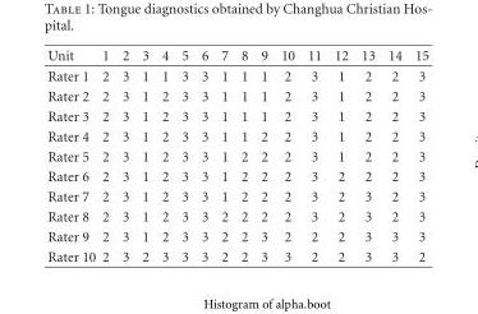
<table><thead><tr><td>Unit</td><td>1</td><td>2</td><td>3</td><td>4</td><td>5</td><td>6</td><td>7</td><td>8</td><td>9</td><td>10</td><td>11</td><td>12</td><td>13</td><td>14</td><td>15</td></tr></thead><tbody><tr><td>Rater 1</td><td>2</td><td>3</td><td>1</td><td>1</td><td>3</td><td>3</td><td>1</td><td>1</td><td>1</td><td>2</td><td>3</td><td>1</td><td>2</td><td>2</td><td>3</td></tr><tr><td>Rater 2</td><td>2</td><td>3</td><td>1</td><td>2</td><td>3</td><td>3</td><td>1</td><td>1</td><td>1</td><td>2</td><td>3</td><td>1</td><td>2</td><td>2</td><td>3</td></tr><tr><td>Rater 3</td><td>2</td><td>3</td><td>1</td><td>2</td><td>3</td><td>3</td><td>1</td><td>1</td><td>1</td><td>2</td><td>3</td><td>1</td><td>2</td><td>2</td><td>3</td></tr><tr><td>Rater 4</td><td>2</td><td>3</td><td>1</td><td>2</td><td>3</td><td>3</td><td>1</td><td>1</td><td>2</td><td>2</td><td>3</td><td>1</td><td>2</td><td>2</td><td>3</td></tr><tr><td>Rater 5</td><td>2</td><td>3</td><td>1</td><td>2</td><td>3</td><td>3</td><td>1</td><td>2</td><td>2</td><td>2</td><td>3</td><td>1</td><td>2</td><td>2</td><td>3</td></tr><tr><td>Rater 6</td><td>2</td><td>3</td><td>1</td><td>2</td><td>3</td><td>3</td><td>1</td><td>2</td><td>2</td><td>2</td><td>3</td><td>2</td><td>2</td><td>2</td><td>3</td></tr><tr><td>Rater 7</td><td>2</td><td>3</td><td>1</td><td>2</td><td>3</td><td>3</td><td>1</td><td>2</td><td>2</td><td>2</td><td>3</td><td>2</td><td>3</td><td>2</td><td>3</td></tr><tr><td>Rater 8</td><td>2</td><td>3</td><td>1</td><td>2</td><td>3</td><td>3</td><td>2</td><td>2</td><td>2</td><td>2</td><td>3</td><td>2</td><td>3</td><td>2</td><td>3</td></tr><tr><td>Rater 9</td><td>2</td><td>3</td><td>1</td><td>2</td><td>3</td><td>3</td><td>2</td><td>2</td><td>3</td><td>2</td><td>2</td><td>2</td><td>3</td><td>3</td><td>3</td></tr><tr><td>Rater 10</td><td>2</td><td>3</td><td>2</td><td>3</td><td>3</td><td>3</td><td>2</td><td>2</td><td>3</td><td>3</td><td>2</td><td>2</td><td>3</td><td>3</td><td>2</td></tr></tbody></table>